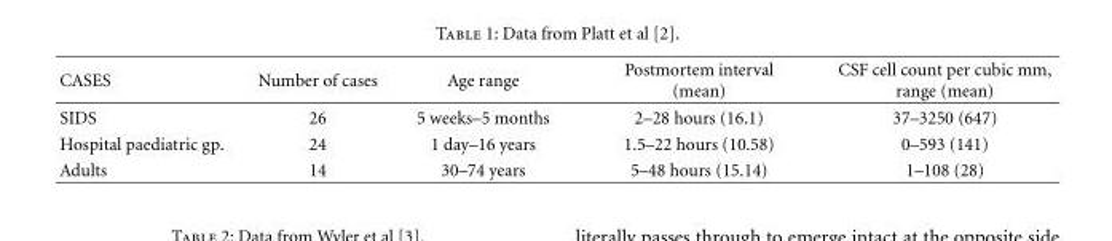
<table><thead><tr><td>CASES</td><td>Number of cases</td><td>Age range</td><td>Postmortem interval (mean)</td><td>CSF cell count per cubic mm, range (mean)</td></tr></thead><tbody><tr><td>SIDS</td><td>26</td><td>5 weeks–5 months</td><td>2–28 hours (16.1)</td><td>37–3250 (647)</td></tr><tr><td>Hospital paediatric gp.</td><td>24</td><td>1 day–16 years</td><td>1.5–22 hours (10.58)</td><td>0–593 (141)</td></tr><tr><td>Adults</td><td>14</td><td>30–74 years</td><td>5–48 hours (15.14)</td><td>1–108 (28)</td></tr></tbody></table>